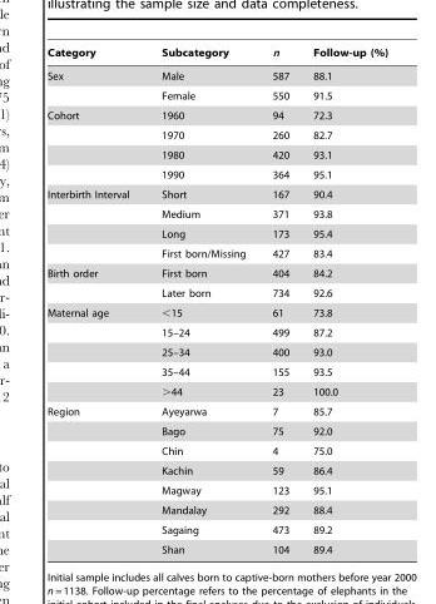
<table><thead><tr><td>Category</td><td>Subcategory</td><td>n</td><td>Follow-up (%)</td></tr></thead><tbody><tr><td rowspan="2">Sex</td><td>Male</td><td>587</td><td>88.1</td></tr><tr><td>Female</td><td>550</td><td>91.5</td></tr><tr><td rowspan="4">Cohort</td><td>1960</td><td>94</td><td>72.3</td></tr><tr><td>1970</td><td>260</td><td>82.7</td></tr><tr><td>1980</td><td>420</td><td>93.1</td></tr><tr><td>1990</td><td>364</td><td>95.1</td></tr><tr><td rowspan="4">Interbirth Interval</td><td>Short</td><td>167</td><td>90.4</td></tr><tr><td>Medium</td><td>371</td><td>93.8</td></tr><tr><td>Long</td><td>173</td><td>95.4</td></tr><tr><td>First born/Missing</td><td>427</td><td>83.4</td></tr><tr><td rowspan="2">Birth order</td><td>First born</td><td>404</td><td>84.2</td></tr><tr><td>Later born</td><td>734</td><td>92.6</td></tr><tr><td rowspan="5">Maternal age</td><td>&lt;15</td><td>61</td><td>73.8</td></tr><tr><td>15–24</td><td>499</td><td>87.2</td></tr><tr><td>25–34</td><td>400</td><td>93.0</td></tr><tr><td>35–44</td><td>155</td><td>93.5</td></tr><tr><td>&gt;44</td><td>23</td><td>100.0</td></tr><tr><td rowspan="8">Region</td><td>Ayeyarwa</td><td>7</td><td>85.7</td></tr><tr><td>Bago</td><td>75</td><td>92.0</td></tr><tr><td>Chin</td><td>4</td><td>75.0</td></tr><tr><td>Kachin</td><td>59</td><td>86.4</td></tr><tr><td>Magway</td><td>123</td><td>95.1</td></tr><tr><td>Mandalay</td><td>292</td><td>88.4</td></tr><tr><td>Sagaing</td><td>473</td><td>89.2</td></tr><tr><td>Shan</td><td>104</td><td>89.4</td></tr></tbody></table>